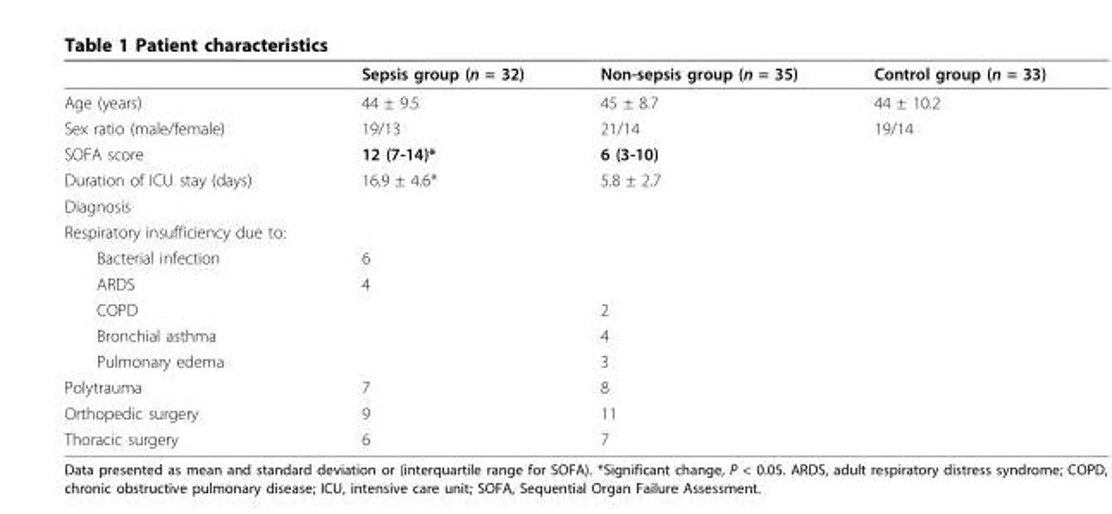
<table><thead><tr><td></td><td>Sepsis group (n = 32)</td><td>Non-sepsis group (n = 35)</td><td>Control group (n = 33)</td></tr></thead><tbody><tr><td>Age (years)</td><td>44 ± 9.5</td><td>45 ± 8.7</td><td>44 ± 10.2</td></tr><tr><td>Sex ratio (male/female)</td><td>19/13</td><td>21/14</td><td>19/14</td></tr><tr><td>SOFA score</td><td>12 (7-14)*</td><td>6 (3-10)</td><td></td></tr><tr><td>Duration of ICU stay (days)</td><td>16.9 ± 4.6*</td><td>5.8 ± 2.7</td><td></td></tr><tr><td colspan="4">Diagnosis</td></tr><tr><td colspan="4">Respiratory insufficiency due to:</td></tr><tr><td>Bacterial infection</td><td>6</td><td></td><td></td></tr><tr><td>ARDS</td><td>4</td><td></td><td></td></tr><tr><td>COPD</td><td></td><td>2</td><td></td></tr><tr><td>Bronchial asthma</td><td></td><td>4</td><td></td></tr><tr><td>Pulmonary edema</td><td></td><td>3</td><td></td></tr><tr><td>Polytrauma</td><td>7</td><td>8</td><td></td></tr><tr><td>Orthopedic surgery</td><td>9</td><td>11</td><td></td></tr><tr><td>Thoracic surgery</td><td>6</td><td>7</td><td></td></tr></tbody></table>